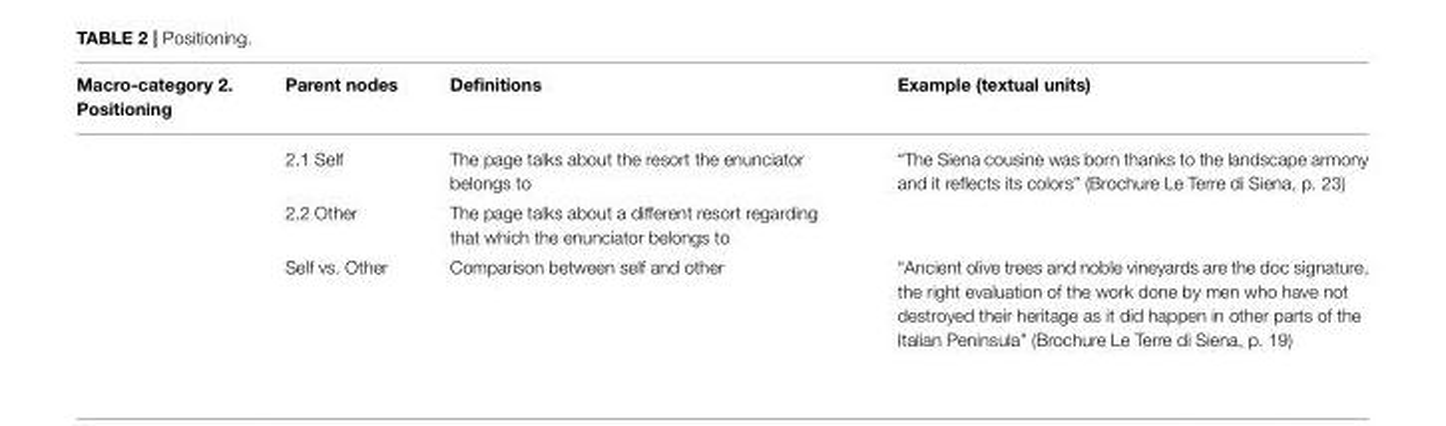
<table><thead><tr><td>Macro-category 2. Positioning</td><td>Parent nodes</td><td>Definitions</td><td>Example (textual units)</td></tr></thead><tbody><tr><td></td><td>2.1 Self</td><td>The page talks about the resort the enunciator belongs to</td><td>“The Siena cousine was born thanks to the landscape armony and it reflects its colors” (Brochure Le Terre di Siena, p. 23)</td></tr><tr><td></td><td>2.2 Other</td><td>The page talks about a different resort regarding that which the enunciator belongs to</td><td></td></tr><tr><td></td><td>Self vs. Other</td><td>Comparison between self and other</td><td>“Ancient olive trees and noble vineyards are the doc signature, the right evaluation of the work done by men who have not destroyed their heritage as it did happen in other parts of the Italian Peninsula” (Brochure Le Terre di Siena, p. 19)</td></tr></tbody></table>